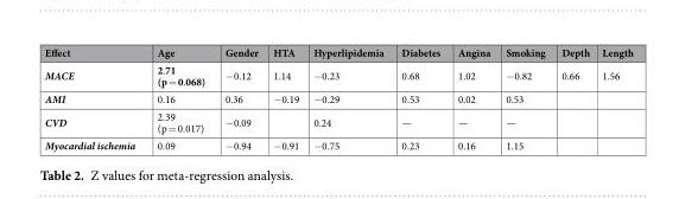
<table><thead><tr><td>Effect</td><td>Age</td><td>Gender</td><td>HTA</td><td>Hyperlipidemia</td><td>Diabetes</td><td>Angina</td><td>Smoking</td><td>Depth</td><td>Length</td></tr></thead><tbody><tr><td>MACE</td><td>2.71 (p = 0.068)</td><td>−0.12</td><td>1.14</td><td>−0.23</td><td>0.68</td><td>1.02</td><td>−0.82</td><td>0.66</td><td>1.56</td></tr><tr><td>AMI</td><td>0.16</td><td>0.36</td><td>−0.19</td><td>−0.29</td><td>0.53</td><td>0.02</td><td>0.53</td><td></td><td></td></tr><tr><td>CVD</td><td>2.39 (p = 0.017)</td><td>−0.09</td><td></td><td>0.24</td><td>—</td><td>—</td><td>—</td><td></td><td></td></tr><tr><td>Myocardial ischemia</td><td>0.09</td><td>−0.94</td><td>−0.91</td><td>−0.75</td><td>0.23</td><td>0.16</td><td>1.15</td><td></td><td></td></tr></tbody></table>